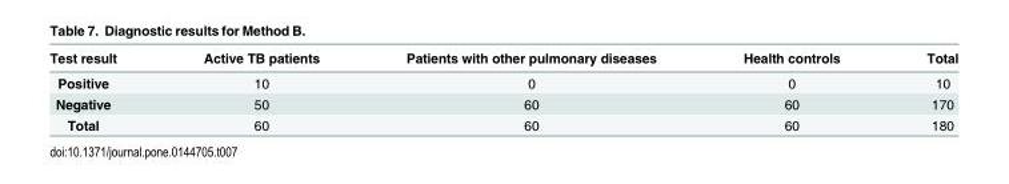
<table><thead><tr><td>Test result</td><td>Active TB patients</td><td>Patients with other pulmonary diseases</td><td>Health controls</td><td>Total</td></tr></thead><tbody><tr><td>Positive</td><td>10</td><td>0</td><td>0</td><td>10</td></tr><tr><td>Negative</td><td>50</td><td>60</td><td>60</td><td>170</td></tr><tr><td>Total</td><td>60</td><td>60</td><td>60</td><td>180</td></tr></tbody></table>